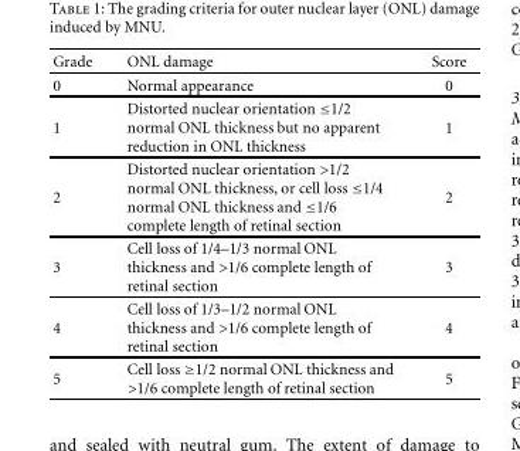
<table><thead><tr><td>Grade</td><td>ONL damage</td><td>Score</td></tr></thead><tbody><tr><td>0</td><td>Normal appearance</td><td>0</td></tr><tr><td>1</td><td>Distorted nuclear orientation ≤1/2 normal ONL thickness but no apparent reduction in ONL thickness</td><td>1</td></tr><tr><td>2</td><td>Distorted nuclear orientation &gt;1/2 normal ONL thickness, or cell loss ≤1/4 normal ONL thickness and ≤1/6 complete length of retinal section</td><td>2</td></tr><tr><td>3</td><td>Cell loss of 1/4–1/3 normal ONL thickness and &gt;1/6 complete length of retinal section</td><td>3</td></tr><tr><td>4</td><td>Cell loss of 1/3–1/2 normal ONL thickness and &gt;1/6 complete length of retinal section</td><td>4</td></tr><tr><td>5</td><td>Cell loss ≥1/2 normal ONL thickness and &gt;1/6 complete length of retinal section</td><td>5</td></tr></tbody></table>